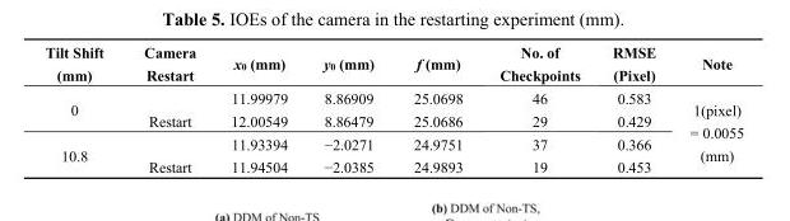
<table><thead><tr><td>Tilt Shift (mm)</td><td>Camera Restart</td><td>x<sub>0</sub> (mm)</td><td>y<sub>0</sub> (mm)</td><td>f (mm)</td><td>No. of Checkpoints</td><td>RMSE (Pixel)</td><td>Note</td></tr></thead><tbody><tr><td rowspan="2">0</td><td></td><td>11.99979</td><td>8.86909</td><td>25.0698</td><td>46</td><td>0.583</td><td rowspan="4">1(pixel) = 0.0055 (mm)</td></tr><tr><td>Restart</td><td>12.00549</td><td>8.86479</td><td>25.0686</td><td>29</td><td>0.429</td></tr><tr><td rowspan="2">10.8</td><td></td><td>11.93394</td><td>−2.0271</td><td>24.9751</td><td>37</td><td>0.366</td></tr><tr><td>Restart</td><td>11.94504</td><td>−2.0385</td><td>24.9893</td><td>19</td><td>0.453</td></tr></tbody></table>